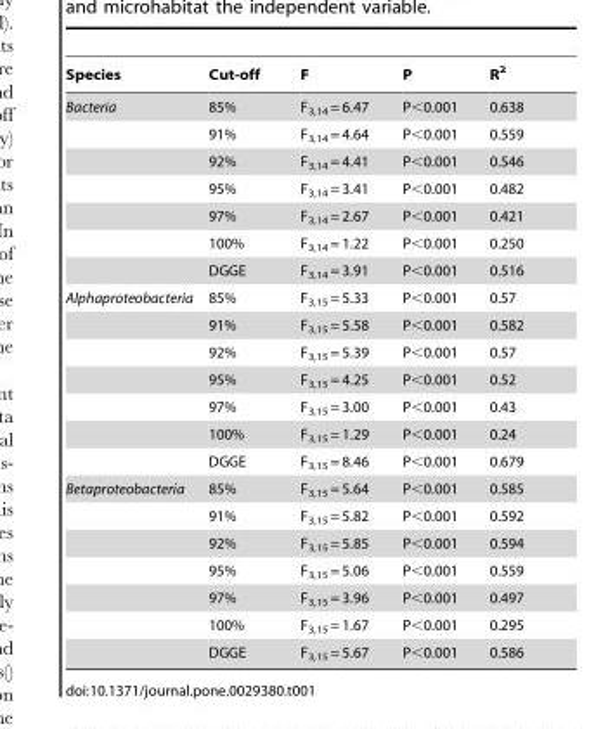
<table><thead><tr><td>Species</td><td>Cut-off</td><td>F</td><td>P</td><td>R<sup>2</sup></td></tr></thead><tbody><tr><td rowspan="7">Bacteria</td><td>85%</td><td>F<sub>3,14</sub> = 6.47</td><td>P&lt;0.001</td><td>0.638</td></tr><tr><td>91%</td><td>F<sub>3,14</sub> = 4.64</td><td>P&lt;0.001</td><td>0.559</td></tr><tr><td>92%</td><td>F<sub>3,14</sub> = 4.41</td><td>P&lt;0.001</td><td>0.546</td></tr><tr><td>95%</td><td>F<sub>3,14</sub> = 3.41</td><td>P&lt;0.001</td><td>0.482</td></tr><tr><td>97%</td><td>F<sub>3,14</sub> = 2.67</td><td>P&lt;0.001</td><td>0.421</td></tr><tr><td>100%</td><td>F<sub>3,14</sub> = 1.22</td><td>P&lt;0.001</td><td>0.250</td></tr><tr><td>DGGE</td><td>F<sub>3,14</sub> = 3.91</td><td>P&lt;0.001</td><td>0.516</td></tr><tr><td rowspan="7">Alphaproteobacteria</td><td>85%</td><td>F<sub>3,15</sub> = 5.33</td><td>P&lt;0.001</td><td>0.57</td></tr><tr><td>91%</td><td>F<sub>3,15</sub> = 5.58</td><td>P&lt;0.001</td><td>0.582</td></tr><tr><td>92%</td><td>F<sub>3,15</sub> = 5.39</td><td>P&lt;0.001</td><td>0.57</td></tr><tr><td>95%</td><td>F<sub>3,15</sub> = 4.25</td><td>P&lt;0.001</td><td>0.52</td></tr><tr><td>97%</td><td>F<sub>3,15</sub> = 3.00</td><td>P&lt;0.001</td><td>0.43</td></tr><tr><td>100%</td><td>F<sub>3,15</sub> = 1.29</td><td>P&lt;0.001</td><td>0.24</td></tr><tr><td>DGGE</td><td>F<sub>3,15</sub> = 8.46</td><td>P&lt;0.001</td><td>0.679</td></tr><tr><td rowspan="7">Betaproteobacteria</td><td>85%</td><td>F<sub>3,15</sub> = 5.64</td><td>P&lt;0.001</td><td>0.585</td></tr><tr><td>91%</td><td>F<sub>3,15</sub> = 5.82</td><td>P&lt;0.001</td><td>0.592</td></tr><tr><td>92%</td><td>F<sub>3,15</sub> = 5.85</td><td>P&lt;0.001</td><td>0.594</td></tr><tr><td>95%</td><td>F<sub>3,15</sub> = 5.06</td><td>P&lt;0.001</td><td>0.559</td></tr><tr><td>97%</td><td>F<sub>3,15</sub> = 3.96</td><td>P&lt;0.001</td><td>0.497</td></tr><tr><td>100%</td><td>F<sub>3,15</sub> = 1.67</td><td>P&lt;0.001</td><td>0.295</td></tr><tr><td>DGGE</td><td>F<sub>3,15</sub> = 5.67</td><td>P&lt;0.001</td><td>0.586</td></tr></tbody></table>